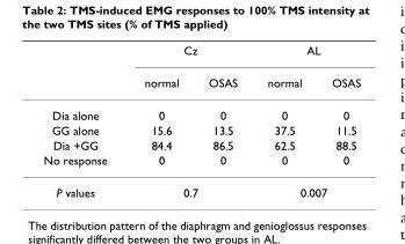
<table><thead><tr><td rowspan="2"></td><td colspan="2">Cz</td><td colspan="2">AL</td></tr><tr><td>normal</td><td>OSAS</td><td>normal</td><td>OSAS</td></tr></thead><tbody><tr><td>Dia alone</td><td>0</td><td>0</td><td>0</td><td>0</td></tr><tr><td>GG alone</td><td>15.6</td><td>13.5</td><td>37.5</td><td>11.5</td></tr><tr><td>Dia +GG</td><td>84.4</td><td>86.5</td><td>62.5</td><td>88.5</td></tr><tr><td>No response</td><td>0</td><td>0</td><td>0</td><td>0</td></tr><tr><td>P values</td><td colspan="2">0.7</td><td colspan="2">0.007</td></tr></tbody></table>